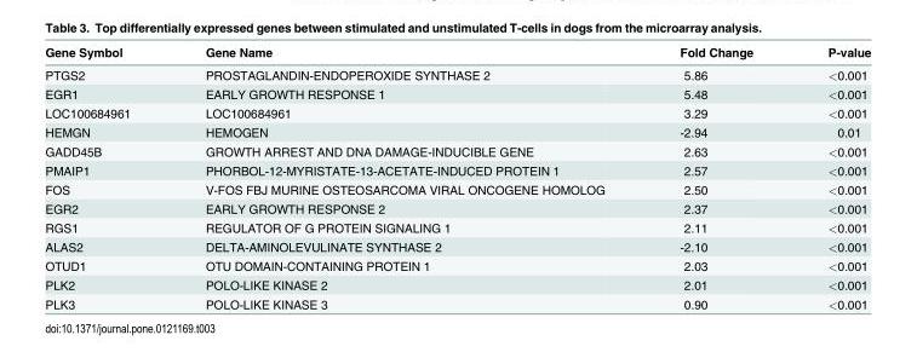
<table><thead><tr><td>Gene Symbol</td><td>Gene Name</td><td>Fold Change</td><td>P-value</td></tr></thead><tbody><tr><td>PTGS2</td><td>PROSTAGLANDIN-ENDOPEROXIDE SYNTHASE 2</td><td>5.86</td><td>&lt;0.001</td></tr><tr><td>EGR1</td><td>EARLY GROWTH RESPONSE 1</td><td>5.48</td><td>&lt;0.001</td></tr><tr><td>LOC100684961</td><td>LOC100684961</td><td>3.29</td><td>&lt;0.001</td></tr><tr><td>HEMGN</td><td>HEMOGEN</td><td>-2.94</td><td>0.01</td></tr><tr><td>GADD45B</td><td>GROWTH ARREST AND DNA DAMAGE-INDUCIBLE GENE</td><td>2.63</td><td>&lt;0.001</td></tr><tr><td>PMAIP1</td><td>PHORBOL-12-MYRISTATE-13-ACETATE-INDUCED PROTEIN 1</td><td>2.57</td><td>&lt;0.001</td></tr><tr><td>FOS</td><td>V-FOS FBJ MURINE OSTEOSARCOMA VIRAL ONCOGENE HOMOLOG</td><td>2.50</td><td>&lt;0.001</td></tr><tr><td>EGR2</td><td>EARLY GROWTH RESPONSE 2</td><td>2.37</td><td>&lt;0.001</td></tr><tr><td>RGS1</td><td>REGULATOR OF G PROTEIN SIGNALING 1</td><td>2.11</td><td>&lt;0.001</td></tr><tr><td>ALAS2</td><td>DELTA-AMINOLEVULINATE SYNTHASE 2</td><td>-2.10</td><td>&lt;0.001</td></tr><tr><td>OTUD1</td><td>OTU DOMAIN-CONTAINING PROTEIN 1</td><td>2.03</td><td>&lt;0.001</td></tr><tr><td>PLK2</td><td>POLO-LIKE KINASE 2</td><td>2.01</td><td>&lt;0.001</td></tr><tr><td>PLK3</td><td>POLO-LIKE KINASE 3</td><td>0.90</td><td>&lt;0.001</td></tr></tbody></table>